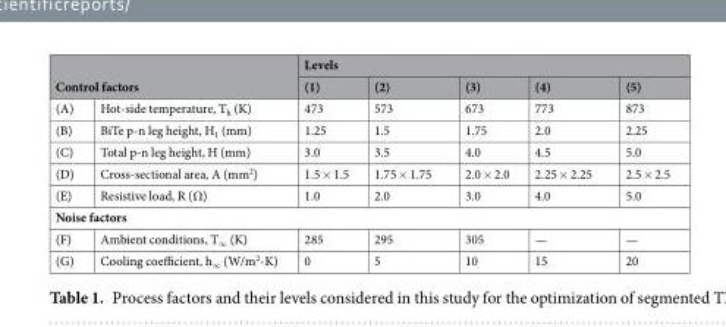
<table><thead><tr><td rowspan="2" colspan="2">Control factors</td><td colspan="5">Levels</td></tr><tr><td rowspan="2">(1) 473</td><td rowspan="2">(2) 573</td><td rowspan="2">(3) 673</td><td rowspan="2">(4) 773</td><td rowspan="2">(5) 873</td></tr><tr><td>(A)</td><td>Hot-side temperature, T<sub>h</sub> (K)</td></tr></thead><tbody><tr><td>(B)</td><td>BiTe p-n leg height, H<sub>1</sub> (mm)</td><td>1.25</td><td>1.5</td><td>1.75</td><td>2.0</td><td>2.25</td></tr><tr><td>(C)</td><td>Total p-n leg height, H (mm)</td><td>3.0</td><td>3.5</td><td>4.0</td><td>4.5</td><td>5.0</td></tr><tr><td>(D)</td><td>Cross-sectional area, A (mm<sup>2</sup>)</td><td>1.5 × 1.5</td><td>1.75 × 1.75</td><td>2.0 × 2.0</td><td>2.25 × 2.25</td><td>2.5 × 2.5</td></tr><tr><td>(E)</td><td>Resistive load, R (Ω)</td><td>1.0</td><td>2.0</td><td>3.0</td><td>4.0</td><td>5.0</td></tr><tr><td colspan="7">Noise factors</td></tr><tr><td>(F)</td><td>Ambient conditions, T<sub>∞</sub> (K)</td><td>285</td><td>295</td><td>305</td><td>—</td><td>—</td></tr><tr><td>(G)</td><td>Cooling coefficient, h<sub>∞</sub> (W/m<sup>2</sup>-K)</td><td>0</td><td>5</td><td>10</td><td>15</td><td>20</td></tr></tbody></table>